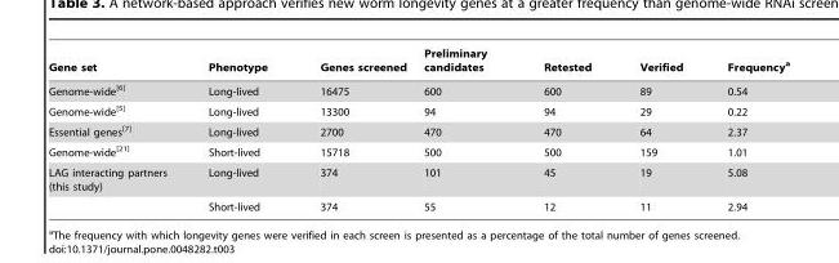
<table><thead><tr><td>Gene set</td><td>Phenotype</td><td>Genes screened</td><td>Preliminary candidates</td><td>Retested</td><td>Verified</td><td>Frequency<sup>a</sup></td></tr></thead><tbody><tr><td>Genome-wide<sup>[6]</sup></td><td>Long-lived</td><td>16475</td><td>600</td><td>600</td><td>89</td><td>0.54</td></tr><tr><td>Genome-wide<sup>[5]</sup></td><td>Long-lived</td><td>13300</td><td>94</td><td>94</td><td>29</td><td>0.22</td></tr><tr><td>Essential genes<sup>[7]</sup></td><td>Long-lived</td><td>2700</td><td>470</td><td>470</td><td>64</td><td>2.37</td></tr><tr><td>Genome-wide<sup>[21]</sup></td><td>Short-lived</td><td>15718</td><td>500</td><td>500</td><td>159</td><td>1.01</td></tr><tr><td rowspan="2">LAG interacting partners (this study)</td><td>Long-lived</td><td>374</td><td>101</td><td>45</td><td>19</td><td>5.08</td></tr><tr><td>Short-lived</td><td>374</td><td>55</td><td>12</td><td>11</td><td>2.94</td></tr></tbody></table>